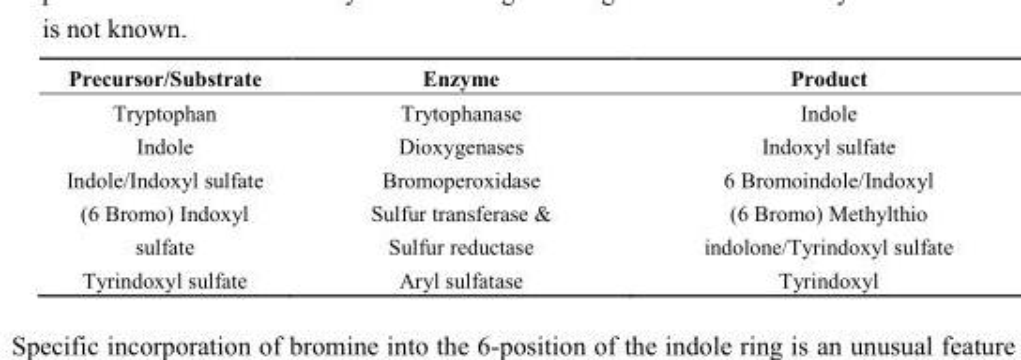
<table><thead><tr><td>Precursor/Substrate</td><td>Enzyme</td><td>Product</td></tr></thead><tbody><tr><td>Tryptophan</td><td>Trytophanase</td><td>Indole</td></tr><tr><td>Indole</td><td>Dioxygenases</td><td>Indoxyl sulfate</td></tr><tr><td>Indole/Indoxyl sulfate</td><td>Bromoperoxidase</td><td>6 Bromoindole/Indoxyl</td></tr><tr><td>(6 Bromo) Indoxyl sulfate</td><td>Sulfur transferase &amp; Sulfur reductase</td><td>(6 Bromo) Methylthio indolone/Tyrindoxyl sulfate</td></tr><tr><td>Tyrindoxyl sulfate</td><td>Aryl sulfatase</td><td>Tyrindoxyl</td></tr></tbody></table>